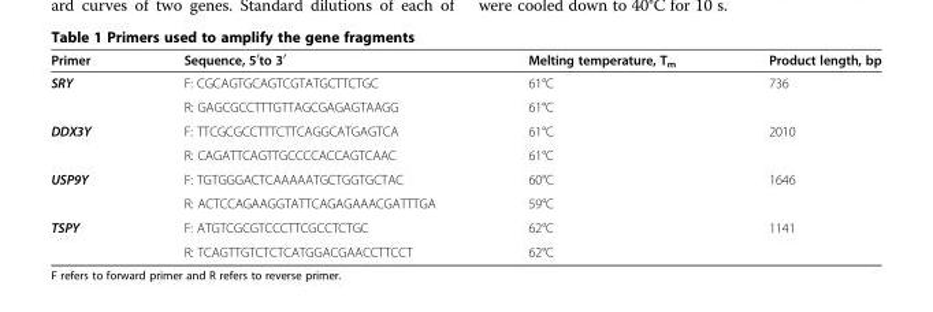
<table><thead><tr><td>Primer</td><td>Sequence, 5<sup>′</sup>to 3<sup>′</sup></td><td>Melting temperature, T<sub>m</sub></td><td>Product length, bp</td></tr></thead><tbody><tr><td rowspan="2">SRY</td><td>F: CGCAGTGCAGTCGTATGCTTCTGC</td><td>61°C</td><td rowspan="2">736</td></tr><tr><td>R: GAGCGCCTTTGTTAGCGAGAGTAAGG</td><td>61°C</td></tr><tr><td rowspan="2">DDX3Y</td><td>F: TTCGCGCCTTTCTTCAGGCATGAGTCA</td><td>61°C</td><td rowspan="2">2010</td></tr><tr><td>R: CAGATTCAGTTGCCCCACCAGTCAAC</td><td>61°C</td></tr><tr><td rowspan="2">USP9Y</td><td>F: TGTGGGACTCAAAAATGCTGGTGCTAC</td><td>60°C</td><td rowspan="2">1646</td></tr><tr><td>R: ACTCCAGAAGGTATTCAGAGAAACGATTTGA</td><td>59°C</td></tr><tr><td rowspan="2">TSPY</td><td>F: ATGTCGCGTCCCTTCGCCTCTGC</td><td>62°C</td><td rowspan="2">1141</td></tr><tr><td>R: TCAGTTGTCTCTCATGGACGAACCTTCCT</td><td>62°C</td></tr></tbody></table>